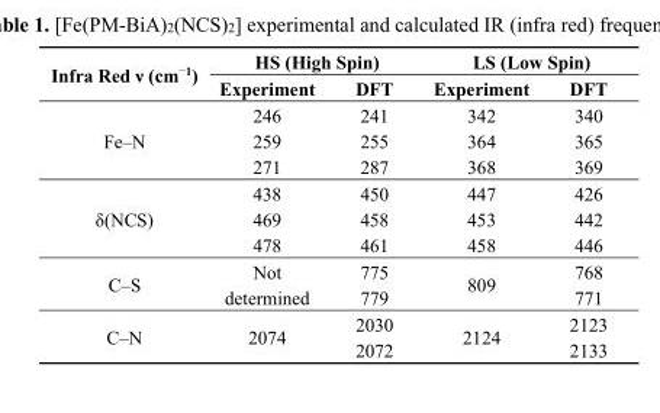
<table><thead><tr><td rowspan="2">Infra Red ν (cm<sup>−1</sup>)</td><td colspan="2">HS (High Spin)</td><td colspan="2">LS (Low Spin)</td></tr><tr><td>Experiment</td><td>DFT</td><td>Experiment</td><td>DFT</td></tr></thead><tbody><tr><td rowspan="3">Fe–N</td><td>246</td><td>241</td><td>342</td><td>340</td></tr><tr><td>259</td><td>255</td><td>364</td><td>365</td></tr><tr><td>271</td><td>287</td><td>368</td><td>369</td></tr><tr><td rowspan="3">δ(NCS)</td><td>438</td><td>450</td><td>447</td><td>426</td></tr><tr><td>469</td><td>458</td><td>453</td><td>442</td></tr><tr><td>478</td><td>461</td><td>458</td><td>446</td></tr><tr><td rowspan="2">C–S</td><td rowspan="2">Not determined</td><td>775</td><td rowspan="2">809</td><td>768</td></tr><tr><td>779</td><td>771</td></tr><tr><td rowspan="2">C–N</td><td rowspan="2">2074</td><td>2030</td><td rowspan="2">2124</td><td>2123</td></tr><tr><td>2072</td><td>2133</td></tr></tbody></table>